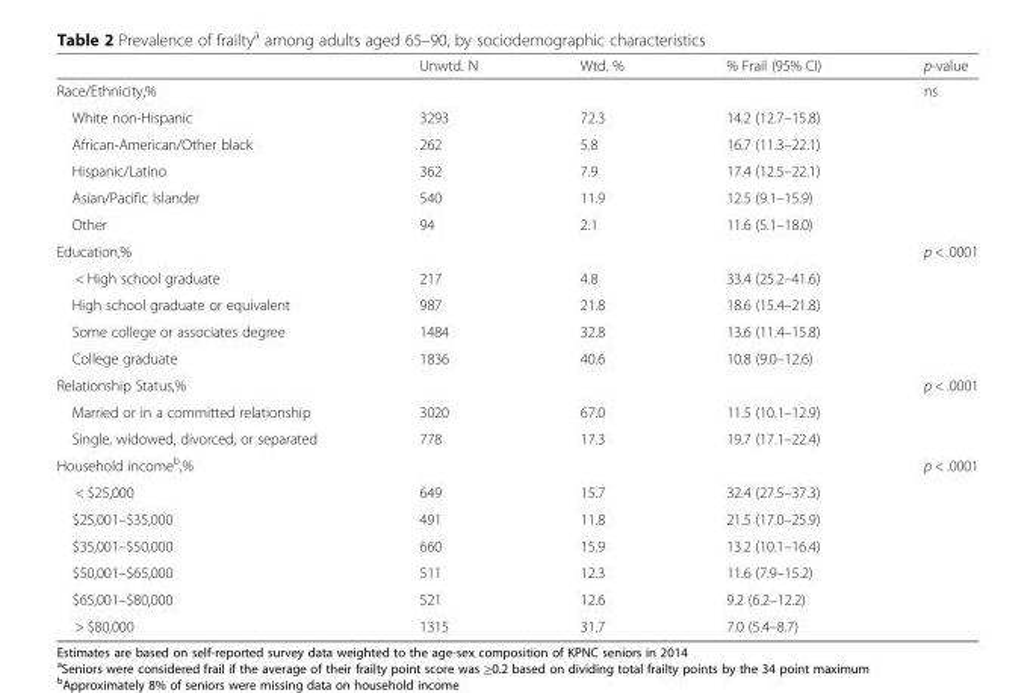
<table><thead><tr><td></td><td>Unwtd. N</td><td>Wtd. %</td><td>% Frail (95% CI)</td><td>p-value</td></tr></thead><tbody><tr><td>Race/Ethnicity,%</td><td></td><td></td><td></td><td>ns</td></tr><tr><td>White non-Hispanic</td><td>3293</td><td>72.3</td><td>14.2 (12.7–15.8)</td><td></td></tr><tr><td>African-American/Other black</td><td>262</td><td>5.8</td><td>16.7 (11.3–22.1)</td><td></td></tr><tr><td>Hispanic/Latino</td><td>362</td><td>7.9</td><td>17.4 (12.5–22.1)</td><td></td></tr><tr><td>Asian/Pacific Islander</td><td>540</td><td>11.9</td><td>12.5 (9.1–15.9)</td><td></td></tr><tr><td>Other</td><td>94</td><td>2.1</td><td>11.6 (5.1–18.0)</td><td></td></tr><tr><td>Education,%</td><td></td><td></td><td></td><td>p &lt; .0001</td></tr><tr><td>&lt; High school graduate</td><td>217</td><td>4.8</td><td>33.4 (25.2–41.6)</td><td></td></tr><tr><td>High school graduate or equivalent</td><td>987</td><td>21.8</td><td>18.6 (15.4–21.8)</td><td></td></tr><tr><td>Some college or associates degree</td><td>1484</td><td>32.8</td><td>13.6 (11.4–15.8)</td><td></td></tr><tr><td>College graduate</td><td>1836</td><td>40.6</td><td>10.8 (9.0–12.6)</td><td></td></tr><tr><td>Relationship Status,%</td><td></td><td></td><td></td><td>p &lt; .0001</td></tr><tr><td>Married or in a committed relationship</td><td>3020</td><td>67.0</td><td>11.5 (10.1–12.9)</td><td></td></tr><tr><td>Single, widowed, divorced, or separated</td><td>778</td><td>17.3</td><td>19.7 (17.1–22.4)</td><td></td></tr><tr><td>Household income<sup>b</sup>,%</td><td></td><td></td><td></td><td>p &lt; .0001</td></tr><tr><td>&lt; $25,000</td><td>649</td><td>15.7</td><td>32.4 (27.5–37.3)</td><td></td></tr><tr><td>$25,001–$35,000</td><td>491</td><td>11.8</td><td>21.5 (17.0–25.9)</td><td></td></tr><tr><td>$35,001–$50,000</td><td>660</td><td>15.9</td><td>13.2 (10.1–16.4)</td><td></td></tr><tr><td>$50,001–$65,000</td><td>511</td><td>12.3</td><td>11.6 (7.9–15.2)</td><td></td></tr><tr><td>$65,001–$80,000</td><td>521</td><td>12.6</td><td>9.2 (6.2–12.2)</td><td></td></tr><tr><td>&gt; $80,000</td><td>1315</td><td>31.7</td><td>7.0 (5.4–8.7)</td><td></td></tr></tbody></table>